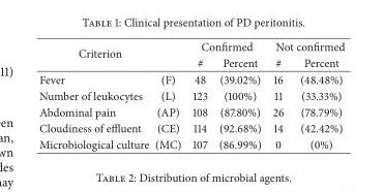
<table><thead><tr><td rowspan="2" colspan="2">Criterion</td><td colspan="2">Confirmed</td><td colspan="2">Not confirmed</td></tr><tr><td rowspan="2"># 48</td><td rowspan="2">Percent (39.02%)</td><td rowspan="2"># 16</td><td rowspan="2">Percent (48.48%)</td></tr><tr><td>Fever</td><td>(F)</td></tr></thead><tbody><tr><td>Number of leukocytes</td><td>(L)</td><td>123</td><td>(100%)</td><td>11</td><td>(33.33%)</td></tr><tr><td>Abdominal pain</td><td>(AP)</td><td>108</td><td>(87.80%)</td><td>26</td><td>(78.79%)</td></tr><tr><td>Cloudiness of effluent</td><td>(CE)</td><td>114</td><td>(92.68%)</td><td>14</td><td>(42.42%)</td></tr><tr><td>Microbiological culture</td><td>(MC)</td><td>107</td><td>(86.99%)</td><td>0</td><td>(0%)</td></tr></tbody></table>